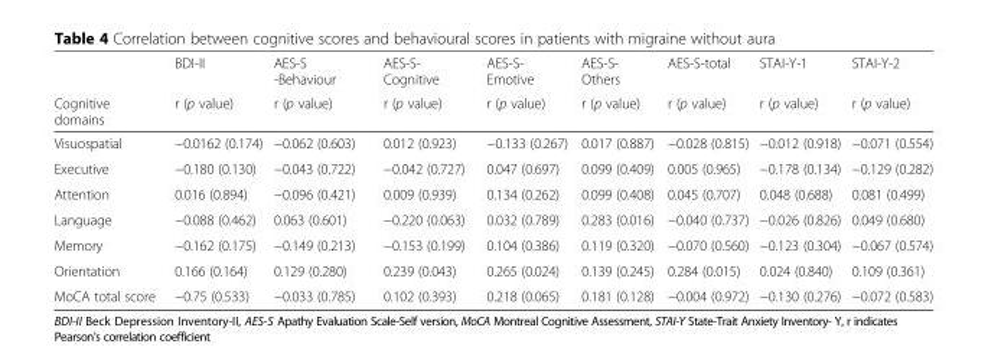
<table><thead><tr><td rowspan="2">Cognitive domains</td><td rowspan="2">BDI-II r (p value)</td><td rowspan="2">AES-S -Behaviour r (p value)</td><td rowspan="2">AES-S- Cognitive r (p value)</td><td rowspan="2">AES-S- Emotive r (p value)</td><td rowspan="2">AES-S- Others r (p value)</td><td rowspan="2">AES-S-total r (p value)</td><td rowspan="2">STAI-Y-1 r (p value)</td><td rowspan="2">STAI-Y-2 r (p value)</td></tr><tr></tr></thead><tbody><tr><td>Visuospatial</td><td>−0.0162 (0.174)</td><td>−0.062 (0.603)</td><td>0.012 (0.923)</td><td>−0.133 (0.267)</td><td>0.017 (0.887)</td><td>−0.028 (0.815)</td><td>−0.012 (0.918)</td><td>−0.071 (0.554)</td></tr><tr><td>Executive</td><td>−0.180 (0.130)</td><td>−0.043 (0.722)</td><td>−0.042 (0.727)</td><td>0.047 (0.697)</td><td>0.099 (0.409)</td><td>0.005 (0.965)</td><td>−0.178 (0.134)</td><td>−0.129 (0.282)</td></tr><tr><td>Attention</td><td>0.016 (0.894)</td><td>−0.096 (0.421)</td><td>0.009 (0.939)</td><td>0.134 (0.262)</td><td>0.099 (0.408)</td><td>0.045 (0.707)</td><td>0.048 (0.688)</td><td>0.081 (0.499)</td></tr><tr><td>Language</td><td>−0.088 (0.462)</td><td>0.063 (0.601)</td><td>−0.220 (0.063)</td><td>0.032 (0.789)</td><td>0.283 (0.016)</td><td>−0.040 (0.737)</td><td>−0.026 (0.826)</td><td>0.049 (0.680)</td></tr><tr><td>Memory</td><td>−0.162 (0.175)</td><td>−0.149 (0.213)</td><td>−0.153 (0.199)</td><td>0.104 (0.386)</td><td>0.119 (0.320)</td><td>−0.070 (0.560)</td><td>−0.123 (0.304)</td><td>−0.067 (0.574)</td></tr><tr><td>Orientation</td><td>0.166 (0.164)</td><td>0.129 (0.280)</td><td>0.239 (0.043)</td><td>0.265 (0.024)</td><td>0.139 (0.245)</td><td>0.284 (0.015)</td><td>0.024 (0.840)</td><td>0.109 (0.361)</td></tr><tr><td>MoCA total score</td><td>−0.75 (0.533)</td><td>−0.033 (0.785)</td><td>0.102 (0.393)</td><td>0.218 (0.065)</td><td>0.181 (0.128)</td><td>−0.004 (0.972)</td><td>−0.130 (0.276)</td><td>−0.072 (0.583)</td></tr></tbody></table>